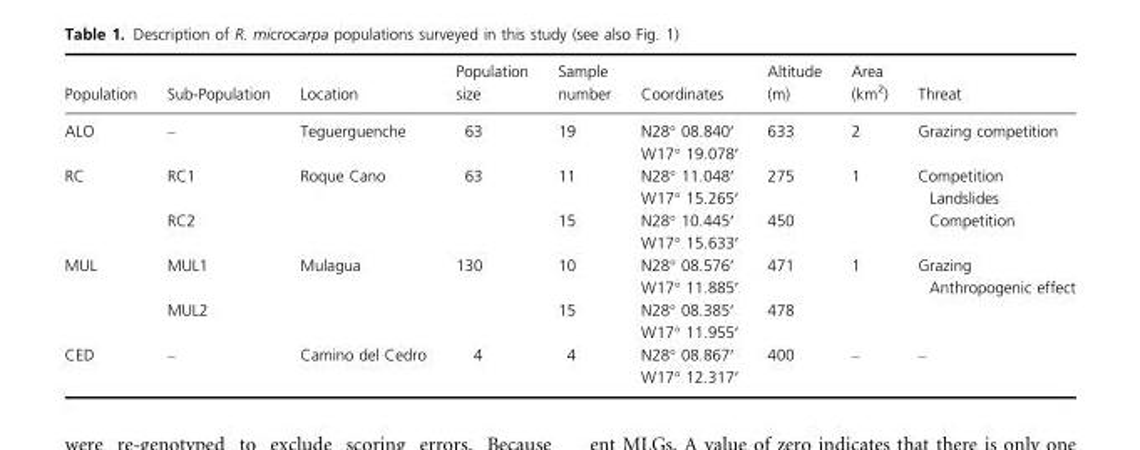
<table><thead><tr><td>Population</td><td>Sub-Population</td><td>Location</td><td>Population size</td><td>Sample number</td><td>Coordinates</td><td>Altitude (m)</td><td>Area (km<sup>2</sup>)</td><td>Threat</td></tr></thead><tbody><tr><td>ALO</td><td>–</td><td>Teguerguenche</td><td>63</td><td>19</td><td>N28° 08.840′ W17° 19.078′</td><td>633</td><td>2</td><td>Grazing competition</td></tr><tr><td>RC</td><td>RC1 RC2</td><td>Roque Cano</td><td>63</td><td>11 15</td><td>N28° 11.048′ W17° 15.265′ N28° 10.445′ W17° 15.633′</td><td>275 450</td><td>1</td><td>Competition Landslides Competition</td></tr><tr><td>MUL</td><td>MUL1 MUL2</td><td>Mulagua</td><td>130</td><td>10 15</td><td>N28° 08.576′ W17° 11.885′ N28° 08.385′ W17° 11.955′</td><td>471 478</td><td>1</td><td>Grazing Anthropogenic effect</td></tr><tr><td>CED</td><td>–</td><td>Camino del Cedro</td><td>4</td><td>4</td><td>N28° 08.867′ W17° 12.317′</td><td>400</td><td>–</td><td>–</td></tr></tbody></table>